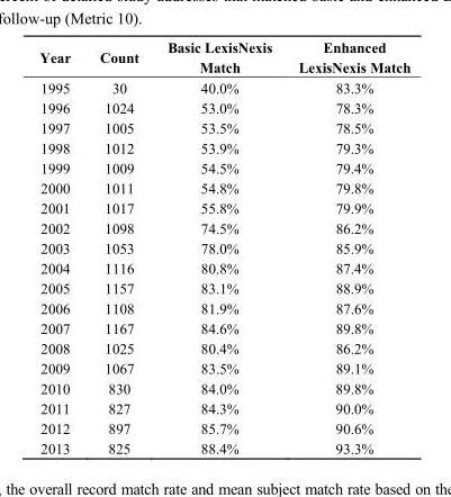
<table><thead><tr><td>Year</td><td>Count</td><td>Basic LexisNexis Match</td><td>Enhanced LexisNexis Match</td></tr></thead><tbody><tr><td>1995</td><td>30</td><td>40.0%</td><td>83.3%</td></tr><tr><td>1996</td><td>1024</td><td>53.0%</td><td>78.3%</td></tr><tr><td>1997</td><td>1005</td><td>53.5%</td><td>78.5%</td></tr><tr><td>1998</td><td>1012</td><td>53.9%</td><td>79.3%</td></tr><tr><td>1999</td><td>1009</td><td>54.5%</td><td>79.4%</td></tr><tr><td>2000</td><td>1011</td><td>54.8%</td><td>79.8%</td></tr><tr><td>2001</td><td>1017</td><td>55.8%</td><td>79.9%</td></tr><tr><td>2002</td><td>1098</td><td>74.5%</td><td>86.2%</td></tr><tr><td>2003</td><td>1053</td><td>78.0%</td><td>85.9%</td></tr><tr><td>2004</td><td>1116</td><td>80.8%</td><td>87.4%</td></tr><tr><td>2005</td><td>1157</td><td>83.1%</td><td>88.9%</td></tr><tr><td>2006</td><td>1108</td><td>81.9%</td><td>87.6%</td></tr><tr><td>2007</td><td>1167</td><td>84.6%</td><td>89.8%</td></tr><tr><td>2008</td><td>1025</td><td>80.4%</td><td>86.2%</td></tr><tr><td>2009</td><td>1067</td><td>83.5%</td><td>89.1%</td></tr><tr><td>2010</td><td>830</td><td>84.0%</td><td>89.8%</td></tr><tr><td>2011</td><td>827</td><td>84.3%</td><td>90.0%</td></tr><tr><td>2012</td><td>897</td><td>85.7%</td><td>90.6%</td></tr><tr><td>2013</td><td>825</td><td>88.4%</td><td>93.3%</td></tr></tbody></table>